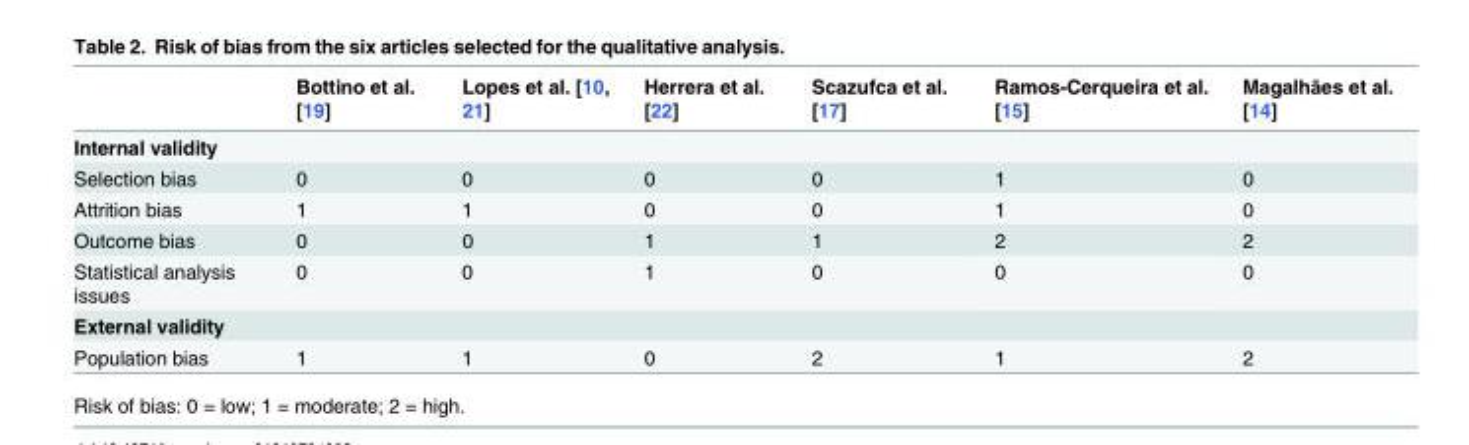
<table><thead><tr><td></td><td>Bottino et al. [19]</td><td>Lopes et al. [10, 21]</td><td>Herrera et al. [22]</td><td>Scazufca et al. [17]</td><td>Ramos-Cerqueira et al. [15]</td><td>Magalhães et al. [14]</td></tr></thead><tbody><tr><td colspan="7">Internal validity</td></tr><tr><td>Selection bias</td><td>0</td><td>0</td><td>0</td><td>0</td><td>1</td><td>0</td></tr><tr><td>Attrition bias</td><td>1</td><td>1</td><td>0</td><td>0</td><td>1</td><td>0</td></tr><tr><td>Outcome bias</td><td>0</td><td>0</td><td>1</td><td>1</td><td>2</td><td>2</td></tr><tr><td>Statistical analysis issues</td><td>0</td><td>0</td><td>1</td><td>0</td><td>0</td><td>0</td></tr><tr><td colspan="7">External validity</td></tr><tr><td>Population bias</td><td>1</td><td>1</td><td>0</td><td>2</td><td>1</td><td>2</td></tr></tbody></table>